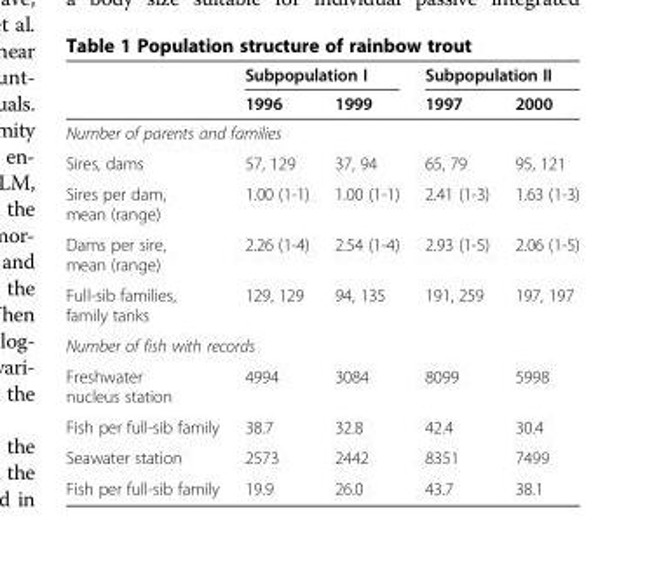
<table><thead><tr><td rowspan="2"></td><td colspan="2">Subpopulation I</td><td colspan="2">Subpopulation II</td></tr><tr><td>1996</td><td>1999</td><td>1997</td><td>2000</td></tr></thead><tbody><tr><td colspan="5">Number of parents and families</td></tr><tr><td>Sires, dams</td><td>57, 129</td><td>37, 94</td><td>65, 79</td><td>95, 121</td></tr><tr><td>Sires per dam, mean (range)</td><td>1.00 (1-1)</td><td>1.00 (1-1)</td><td>2.41 (1-3)</td><td>1.63 (1-3)</td></tr><tr><td>Dams per sire, mean (range)</td><td>2.26 (1-4)</td><td>2.54 (1-4)</td><td>2.93 (1-5)</td><td>2.06 (1-5)</td></tr><tr><td>Full-sib families, family tanks</td><td>129, 129</td><td>94, 135</td><td>191, 259</td><td>197, 197</td></tr><tr><td colspan="5">Number of fish with records</td></tr><tr><td>Freshwater nucleus station</td><td>4994</td><td>3084</td><td>8099</td><td>5998</td></tr><tr><td>Fish per full-sib family</td><td>38.7</td><td>32.8</td><td>42.4</td><td>30.4</td></tr><tr><td>Seawater station</td><td>2573</td><td>2442</td><td>8351</td><td>7499</td></tr><tr><td>Fish per full-sib family</td><td>19.9</td><td>26.0</td><td>43.7</td><td>38.1</td></tr></tbody></table>